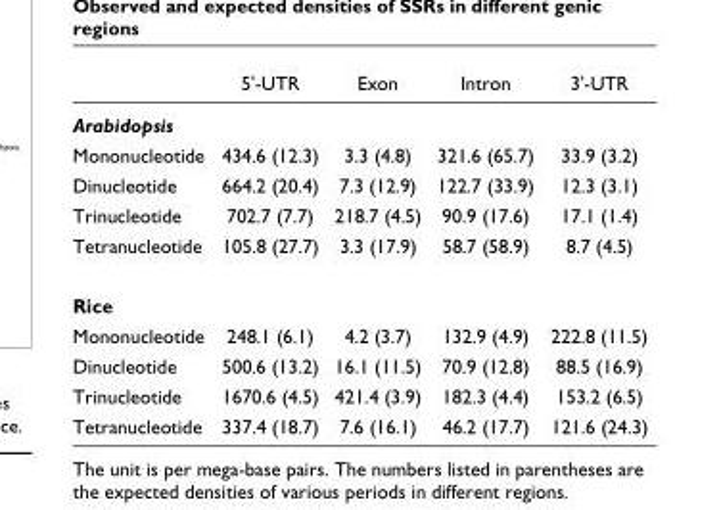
<table><thead><tr><td></td><td>5&#x27;-UTR</td><td>Exon</td><td>Intron</td><td>3&#x27;-UTR</td></tr></thead><tbody><tr><td colspan="5">Arabidopsis</td></tr><tr><td>Mononucleotide</td><td>434.6 (12.3)</td><td>3.3 (4.8)</td><td>321.6 (65.7)</td><td>33.9 (3.2)</td></tr><tr><td>Dinucleotide</td><td>664.2 (20.4)</td><td>7.3 (12.9)</td><td>122.7 (33.9)</td><td>12.3 (3.1)</td></tr><tr><td>Trinucleotide</td><td>702.7 (7.7)</td><td>218.7 (4.5)</td><td>90.9 (17.6)</td><td>17.1 (1.4)</td></tr><tr><td>Tetranucleotide</td><td>105.8 (27.7)</td><td>3.3 (17.9)</td><td>58.7 (58.9)</td><td>8.7 (4.5)</td></tr><tr><td colspan="5">Rice</td></tr><tr><td>Mononucleotide</td><td>248.1 (6.1)</td><td>4.2 (3.7)</td><td>132.9 (4.9)</td><td>222.8 (11.5)</td></tr><tr><td>Dinucleotide</td><td>500.6 (13.2)</td><td>16.1 (11.5)</td><td>70.9 (12.8)</td><td>88.5 (16.9)</td></tr><tr><td>Trinucleotide</td><td>1670.6 (4.5)</td><td>421.4 (3.9)</td><td>182.3 (4.4)</td><td>153.2 (6.5)</td></tr><tr><td>Tetranucleotide</td><td>337.4 (18.7)</td><td>7.6 (16.1)</td><td>46.2 (17.7)</td><td>121.6 (24.3)</td></tr></tbody></table>